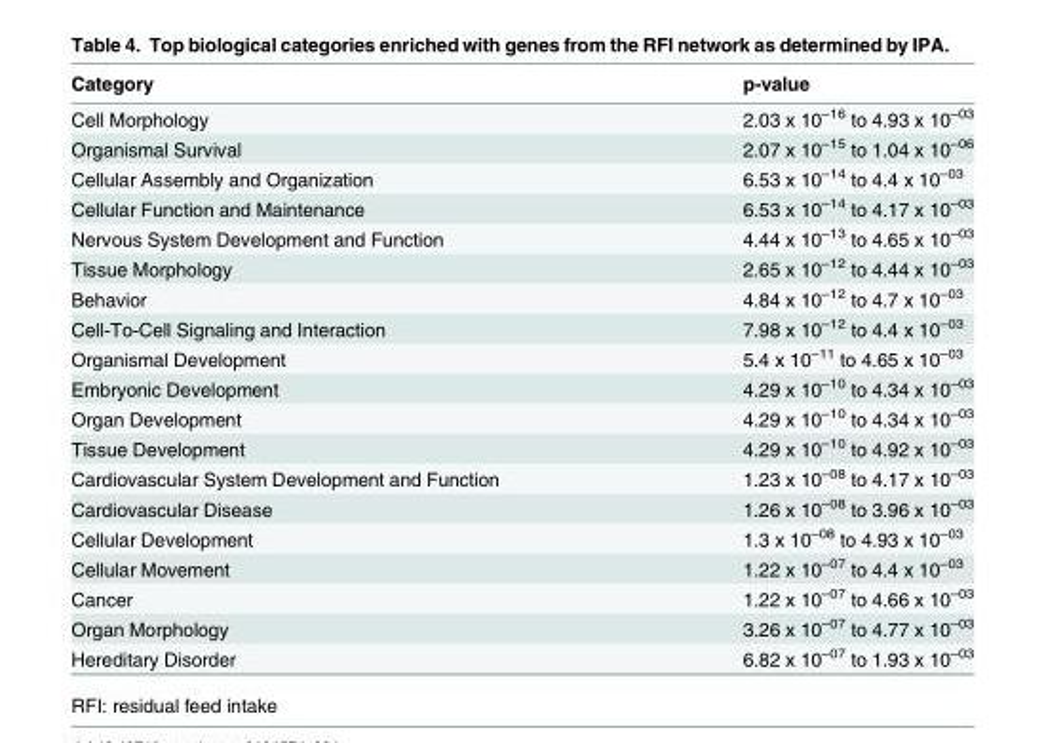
<table><thead><tr><td>Category</td><td>p-value</td></tr></thead><tbody><tr><td>Cell Morphology</td><td>2.03 x 10<sup>–16</sup> to 4.93 x 10<sup>–03</sup></td></tr><tr><td>Organismal Survival</td><td>2.07 x 10<sup>–15</sup> to 1.04 x 10<sup>–06</sup></td></tr><tr><td>Cellular Assembly and Organization</td><td>6.53 x 10<sup>–14</sup> to 4.4 x 10<sup>–03</sup></td></tr><tr><td>Cellular Function and Maintenance</td><td>6.53 x 10<sup>–14</sup> to 4.17 x 10<sup>–03</sup></td></tr><tr><td>Nervous System Development and Function</td><td>4.44 x 10<sup>–13</sup> to 4.65 x 10<sup>–03</sup></td></tr><tr><td>Tissue Morphology</td><td>2.65 x 10<sup>–12</sup> to 4.44 x 10<sup>–03</sup></td></tr><tr><td>Behavior</td><td>4.84 x 10<sup>–12</sup> to 4.7 x 10<sup>–03</sup></td></tr><tr><td>Cell-To-Cell Signaling and Interaction</td><td>7.98 x 10<sup>–12</sup> to 4.4 x 10<sup>–03</sup></td></tr><tr><td>Organismal Development</td><td>5.4 x 10<sup>–11</sup> to 4.65 x 10<sup>–03</sup></td></tr><tr><td>Embryonic Development</td><td>4.29 x 10<sup>–10</sup> to 4.34 x 10<sup>–03</sup></td></tr><tr><td>Organ Development</td><td>4.29 x 10<sup>–10</sup> to 4.34 x 10<sup>–03</sup></td></tr><tr><td>Tissue Development</td><td>4.29 x 10<sup>–10</sup> to 4.92 x 10<sup>–03</sup></td></tr><tr><td>Cardiovascular System Development and Function</td><td>1.23 x 10<sup>–08</sup> to 4.17 x 10<sup>–03</sup></td></tr><tr><td>Cardiovascular Disease</td><td>1.26 x 10<sup>–08</sup> to 3.96 x 10<sup>–03</sup></td></tr><tr><td>Cellular Development</td><td>1.3 x 10<sup>–08</sup> to 4.93 x 10<sup>–03</sup></td></tr><tr><td>Cellular Movement</td><td>1.22 x 10<sup>–07</sup> to 4.4 x 10<sup>–03</sup></td></tr><tr><td>Cancer</td><td>1.22 x 10<sup>–07</sup> to 4.66 x 10<sup>–03</sup></td></tr><tr><td>Organ Morphology</td><td>3.26 x 10<sup>–07</sup> to 4.77 x 10<sup>–03</sup></td></tr><tr><td>Hereditary Disorder</td><td>6.82 x 10<sup>–07</sup> to 1.93 x 10<sup>–03</sup></td></tr></tbody></table>